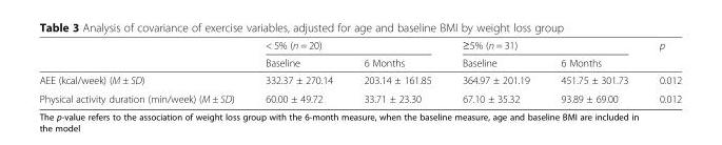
<table><thead><tr><td rowspan="2"></td><td colspan="2">&lt; 5% (n = 20)</td><td colspan="2">≥5% (n = 31)</td><td rowspan="2">p</td></tr><tr><td>Baseline</td><td>6 Months</td><td>Baseline</td><td>6 Months</td></tr></thead><tbody><tr><td>AEE (kcal/week) (M ± SD)</td><td>332.37 ± 270.14</td><td>203.14 ± 161.85</td><td>364.97 ± 201.19</td><td>451.75 ± 301.73</td><td>0.012</td></tr><tr><td>Physical activity duration (min/week) (M ± SD)</td><td>60.00 ± 49.72</td><td>33.71 ± 23.30</td><td>67.10 ± 35.32</td><td>93.89 ± 69.00</td><td>0.012</td></tr></tbody></table>